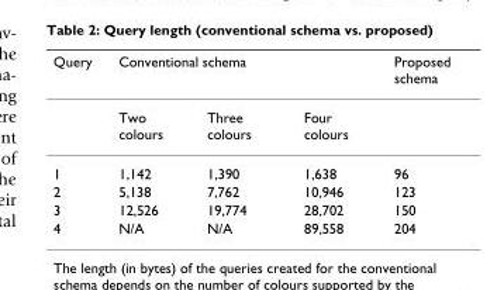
<table><thead><tr><td rowspan="2">Query</td><td colspan="3">Conventional schema</td><td rowspan="2">Proposed schema</td></tr><tr><td>Two colours</td><td>Three colours</td><td>Four colours</td></tr></thead><tbody><tr><td>1</td><td>1,142</td><td>1,390</td><td>1,638</td><td>96</td></tr><tr><td>2</td><td>5,138</td><td>7,762</td><td>10,946</td><td>123</td></tr><tr><td>3</td><td>12,526</td><td>19,774</td><td>28,702</td><td>150</td></tr><tr><td>4</td><td>N/A</td><td>N/A</td><td>89,558</td><td>204</td></tr></tbody></table>